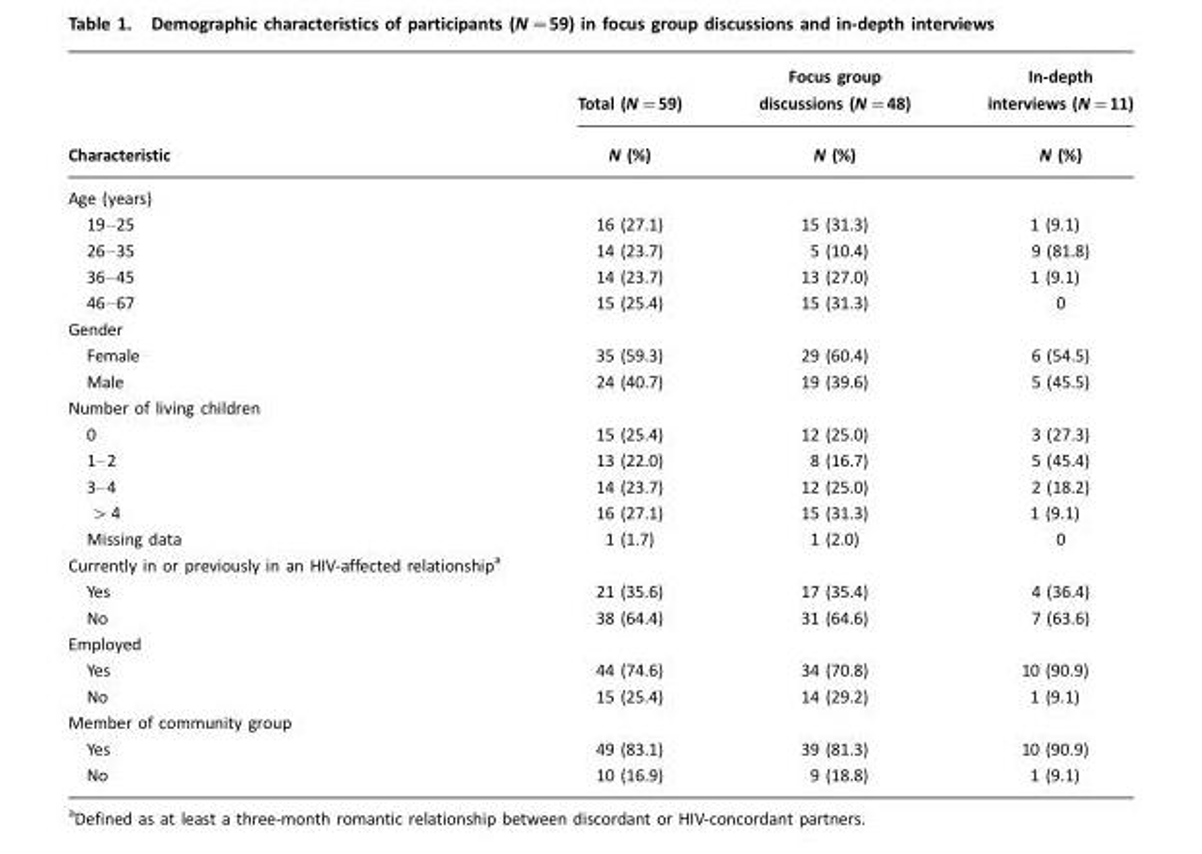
<table><thead><tr><td rowspan="2">Characteristic</td><td rowspan="2">Total (N=59) N (%)</td><td rowspan="2">Focus group discussions (N=48) N (%)</td><td rowspan="2">In-depth interviews (N=11) N (%)</td></tr><tr></tr></thead><tbody><tr><td colspan="4">Age (years)</td></tr><tr><td>19–25</td><td>16 (27.1)</td><td>15 (31.3)</td><td>1 (9.1)</td></tr><tr><td>26–35</td><td>14 (23.7)</td><td>5 (10.4)</td><td>9 (81.8)</td></tr><tr><td>36–45</td><td>14 (23.7)</td><td>13 (27.0)</td><td>1 (9.1)</td></tr><tr><td>46–67</td><td>15 (25.4)</td><td>15 (31.3)</td><td>0</td></tr><tr><td colspan="4">Gender</td></tr><tr><td>Female</td><td>35 (59.3)</td><td>29 (60.4)</td><td>6 (54.5)</td></tr><tr><td>Male</td><td>24 (40.7)</td><td>19 (39.6)</td><td>5 (45.5)</td></tr><tr><td colspan="4">Number of living children</td></tr><tr><td>0</td><td>15 (25.4)</td><td>12 (25.0)</td><td>3 (27.3)</td></tr><tr><td>1–2</td><td>13 (22.0)</td><td>8 (16.7)</td><td>5 (45.4)</td></tr><tr><td>3–4</td><td>14 (23.7)</td><td>12 (25.0)</td><td>2 (18.2)</td></tr><tr><td>&gt;4</td><td>16 (27.1)</td><td>15 (31.3)</td><td>1 (9.1)</td></tr><tr><td>Missing data</td><td>1 (1.7)</td><td>1 (2.0)</td><td>0</td></tr><tr><td colspan="4">Currently in or previously in an HIV-affected relationship<sup>a</sup></td></tr><tr><td>Yes</td><td>21 (35.6)</td><td>17 (35.4)</td><td>4 (36.4)</td></tr><tr><td>No</td><td>38 (64.4)</td><td>31 (64.6)</td><td>7 (63.6)</td></tr><tr><td colspan="4">Employed</td></tr><tr><td>Yes</td><td>44 (74.6)</td><td>34 (70.8)</td><td>10 (90.9)</td></tr><tr><td>No</td><td>15 (25.4)</td><td>14 (29.2)</td><td>1 (9.1)</td></tr><tr><td colspan="4">Member of community group</td></tr><tr><td>Yes</td><td>49 (83.1)</td><td>39 (81.3)</td><td>10 (90.9)</td></tr><tr><td>No</td><td>10 (16.9)</td><td>9 (18.8)</td><td>1 (9.1)</td></tr></tbody></table>